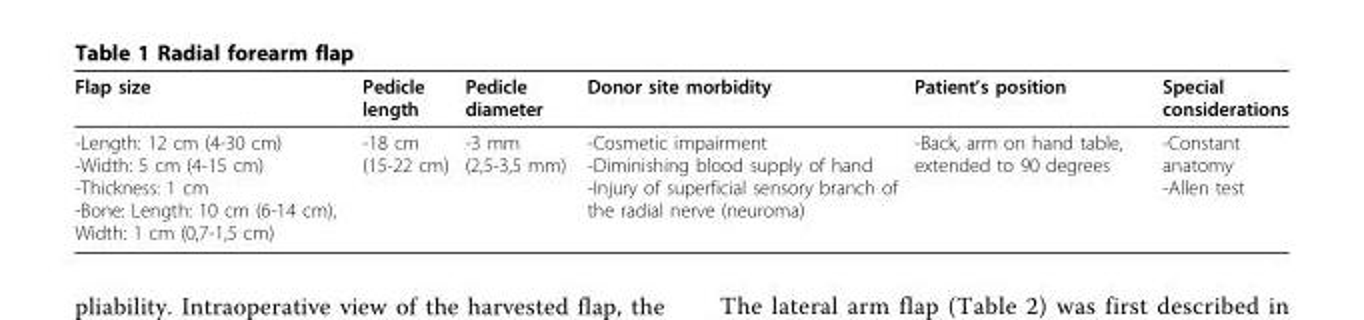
<table><thead><tr><td>Flap size</td><td>Pedicle length</td><td>Pedicle diameter</td><td>Donor site morbidity</td><td>Patient’s position</td><td>Special considerations</td></tr></thead><tbody><tr><td>-Length: 12 cm (4-30 cm) -Width: 5 cm (4-15 cm) -Thickness: 1 cm -Bone: Length: 10 cm (6-14 cm), Width: 1 cm (0,7-1,5 cm)</td><td>-18 cm (15-22 cm)</td><td>-3 mm (2,5-3,5 mm)</td><td>-Cosmetic impairment -Diminishing blood supply of hand -Injury of superficial sensory branch of the radial nerve (neuroma)</td><td>-Back, arm on hand table, extended to 90 degrees</td><td>-Constant anatomy -Allen test</td></tr></tbody></table>